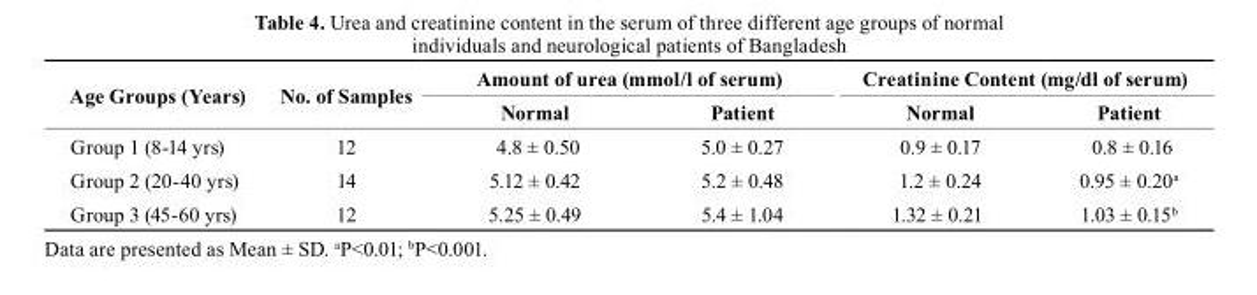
<table><thead><tr><td rowspan="2">Age Groups (Years)</td><td rowspan="2">no. of Samples</td><td colspan="2">Amount of urea (mmol/l of serum)</td><td colspan="2">creatinine content (mg/dl of serum)</td></tr><tr><td>normal</td><td>Patient</td><td>normal</td><td>Patient</td></tr></thead><tbody><tr><td>Group 1 (8-14 yrs)</td><td>12</td><td>4.8 ± 0.50</td><td>5.0 ± 0.27</td><td>0.9 ± 0.17</td><td>0.8 ± 0.16</td></tr><tr><td>Group 2 (20-40 yrs)</td><td>14</td><td>5.12 ± 0.42</td><td>5.2 ± 0.48</td><td>1.2 ± 0.24</td><td>0.95 ± 0.20<sup>a</sup></td></tr><tr><td>Group 3 (45-60 yrs)</td><td>12</td><td>5.25 ± 0.49</td><td>5.4 ± 1.04</td><td>1.32 ± 0.21</td><td>1.03 ± 0.15<sup>b</sup></td></tr></tbody></table>